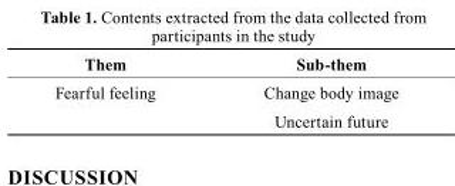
<table><thead><tr><td>them</td><td>sub-them</td></tr></thead><tbody><tr><td rowspan="2">Fearful feeling</td><td>Change body image</td></tr><tr><td>Uncertain future</td></tr></tbody></table>